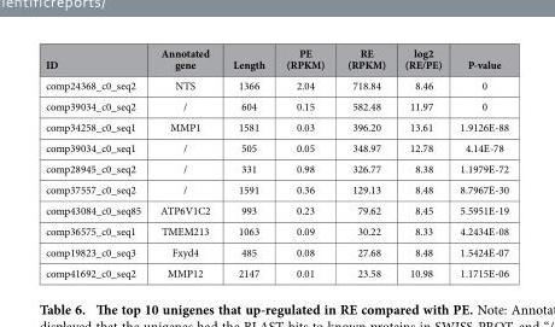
<table><thead><tr><td>ID</td><td>Annotated gene</td><td>Length</td><td>PE (RPKM)</td><td>RE (RPKM)</td><td>log2 (RE/PE)</td><td>P-value</td></tr></thead><tbody><tr><td>comp24368_c0_seq2</td><td>NTS</td><td>1366</td><td>2.04</td><td>718.84</td><td>8.46</td><td>0</td></tr><tr><td>comp39034_c0_seq2</td><td>/</td><td>604</td><td>0.15</td><td>582.48</td><td>11.97</td><td>0</td></tr><tr><td>comp34258_c0_seq1</td><td>MMP1</td><td>1581</td><td>0.03</td><td>396.20</td><td>13.61</td><td>1.9126E-88</td></tr><tr><td>comp39034_c0_seq1</td><td>/</td><td>505</td><td>0.05</td><td>348.97</td><td>12.78</td><td>4.14E-78</td></tr><tr><td>comp28945_c0_seq2</td><td>/</td><td>331</td><td>0.98</td><td>326.77</td><td>8.38</td><td>1.1979E-72</td></tr><tr><td>comp37557_c0_seq2</td><td>/</td><td>1591</td><td>0.36</td><td>129.13</td><td>8.48</td><td>8.7967E-30</td></tr><tr><td>comp43084_c0_seq85</td><td>ATP6V1C2</td><td>993</td><td>0.23</td><td>79.62</td><td>8.45</td><td>5.5951E-19</td></tr><tr><td>comp36575_c0_seq1</td><td>TMEM213</td><td>1063</td><td>0.09</td><td>30.22</td><td>8.33</td><td>4.2434E-08</td></tr><tr><td>comp19823_c0_seq3</td><td>Fxyd4</td><td>485</td><td>0.08</td><td>27.68</td><td>8.48</td><td>1.5424E-07</td></tr><tr><td>comp41692_c0_seq2</td><td>MMP12</td><td>2147</td><td>0.01</td><td>23.58</td><td>10.98</td><td>1.1715E-06</td></tr></tbody></table>